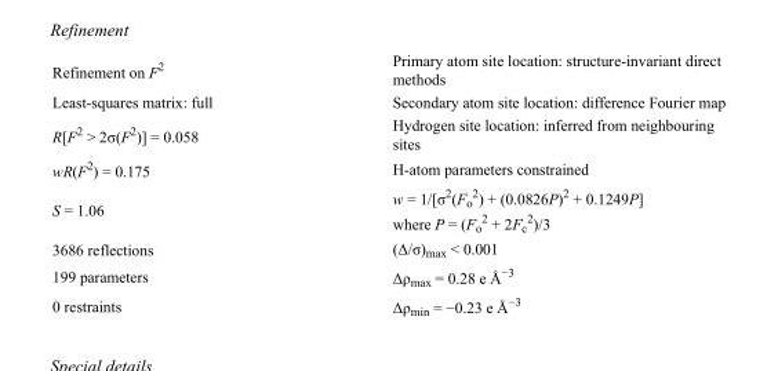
<table><tbody><tr><td>Refinement on F<sup>2</sup></td><td>Primary atom site location: structure-invariant direct methods</td></tr><tr><td>Least-squares matrix: full</td><td>Secondary atom site location: difference Fourier map</td></tr><tr><td>R[F<sup>2</sup> &gt; 2σ(F<sup>2</sup>)] = 0.058</td><td>Hydrogen site location: inferred from neighbouring sites</td></tr><tr><td>wR(F<sup>2</sup>) = 0.175</td><td>H-atom parameters constrained</td></tr><tr><td>S = 1.06</td><td>w = 1/[σ<sup>2</sup>(F<sub>o</sub> <sup>2</sup>) + (0.0826P)<sup>2</sup> + 0.1249P] where P = (F<sub>o</sub> <sup>2</sup> + 2F<sub>c</sub> <sup>2</sup>)/3</td></tr><tr><td>3686 reflections</td><td>(Δ/σ)<sub>max</sub> &lt; 0.001</td></tr><tr><td>199 parameters</td><td>Δρ<sub>max</sub> = 0.28 e Å<sup>−3</sup></td></tr><tr><td>0 restraints</td><td>Δρ<sub>min</sub> = −0.23 e Å<sup>−3</sup></td></tr></tbody></table>